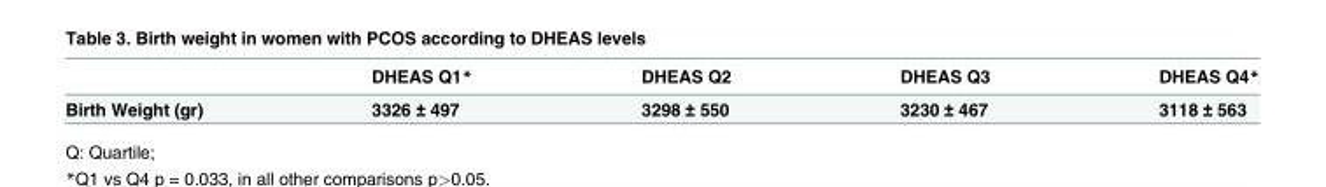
<table><thead><tr><td></td><td>DHEAS Q1*</td><td>DHEAS Q2</td><td>DHEAS Q3</td><td>DHEAS Q4*</td></tr></thead><tbody><tr><td>Birth Weight (gr)</td><td>3326 ± 497</td><td>3298 ± 550</td><td>3230 ± 467</td><td>3118 ± 563</td></tr></tbody></table>